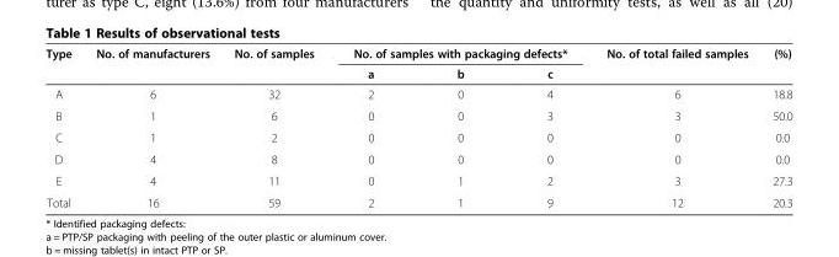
<table><thead><tr><td rowspan="2">Type</td><td rowspan="2">No. of manufacturers</td><td rowspan="2">No. of samples</td><td colspan="3">No. of samples with packaging defects*</td><td rowspan="2">No. of total failed samples</td><td rowspan="2">(%)</td></tr><tr><td>a</td><td>b</td><td>c</td></tr></thead><tbody><tr><td>A</td><td>6</td><td>32</td><td>2</td><td>0</td><td>4</td><td>6</td><td>18.8</td></tr><tr><td>B</td><td>1</td><td>6</td><td>0</td><td>0</td><td>3</td><td>3</td><td>50.0</td></tr><tr><td>C</td><td>1</td><td>2</td><td>0</td><td>0</td><td>0</td><td>0</td><td>0.0</td></tr><tr><td>D</td><td>4</td><td>8</td><td>0</td><td>0</td><td>0</td><td>0</td><td>0.0</td></tr><tr><td>E</td><td>4</td><td>11</td><td>0</td><td>1</td><td>2</td><td>3</td><td>27.3</td></tr><tr><td>Total</td><td>16</td><td>59</td><td>2</td><td>1</td><td>9</td><td>12</td><td>20.3</td></tr></tbody></table>